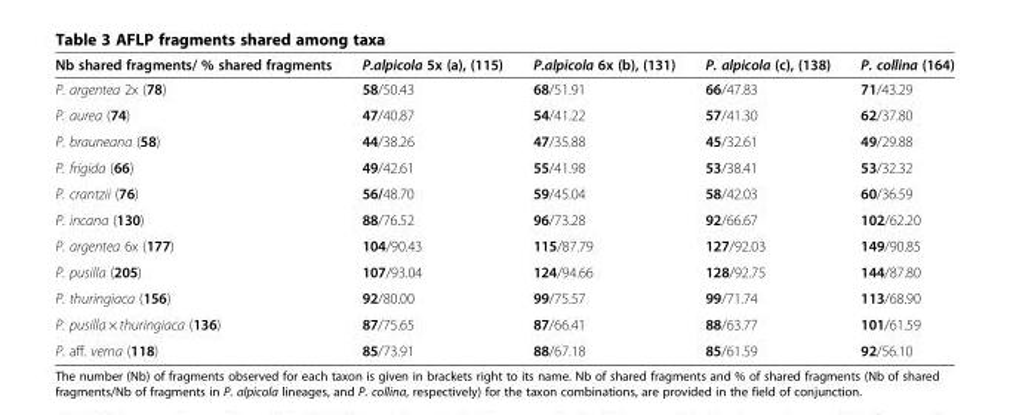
<table><thead><tr><td>Nb shared fragments/ % shared fragments</td><td>P.alpicola 5x (a), (115)</td><td>P.alpicola 6x (b), (131)</td><td>P. alpicola (c), (138)</td><td>P. collina (164)</td></tr></thead><tbody><tr><td>P. argentea 2x (78)</td><td>58/50.43</td><td>68/51.91</td><td>66/47.83</td><td>71/43.29</td></tr><tr><td>P. aurea (74)</td><td>47/40.87</td><td>54/41.22</td><td>57/41.30</td><td>62/37.80</td></tr><tr><td>P. brauneana (58)</td><td>44/38.26</td><td>47/35.88</td><td>45/32.61</td><td>49/29.88</td></tr><tr><td>P. frigida (66)</td><td>49/42.61</td><td>55/41.98</td><td>53/38.41</td><td>53/32.32</td></tr><tr><td>P. crantzii (76)</td><td>56/48.70</td><td>59/45.04</td><td>58/42.03</td><td>60/36.59</td></tr><tr><td>P. incana (130)</td><td>88/76.52</td><td>96/73.28</td><td>92/66.67</td><td>102/62.20</td></tr><tr><td>P. argentea 6x (177)</td><td>104/90.43</td><td>115/87.79</td><td>127/92.03</td><td>149/90.85</td></tr><tr><td>P. pusilla (205)</td><td>107/93.04</td><td>124/94.66</td><td>128/92.75</td><td>144/87.80</td></tr><tr><td>P. thuringiaca (156)</td><td>92/80.00</td><td>99/75.57</td><td>99/71.74</td><td>113/68.90</td></tr><tr><td>P. pusilla × thuringiaca (136)</td><td>87/75.65</td><td>87/66.41</td><td>88/63.77</td><td>101/61.59</td></tr><tr><td>P. aff. verna (118)</td><td>85/73.91</td><td>88/67.18</td><td>85/61.59</td><td>92/56.10</td></tr></tbody></table>